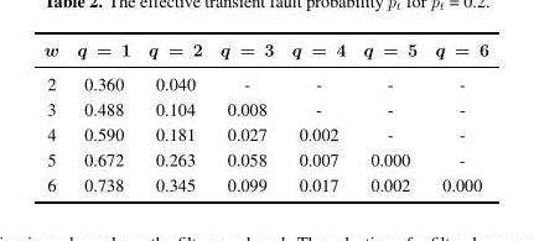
<table><thead><tr><td>w</td><td>q = 1</td><td>q = 2</td><td>q = 3</td><td>q = 4</td><td>q = 5</td><td>q = 6</td></tr></thead><tbody><tr><td>2</td><td>0.360</td><td>0.040</td><td>-</td><td>-</td><td>-</td><td>-</td></tr><tr><td>3</td><td>0.488</td><td>0.104</td><td>0.008</td><td>-</td><td>-</td><td>-</td></tr><tr><td>4</td><td>0.590</td><td>0.181</td><td>0.027</td><td>0.002</td><td>-</td><td>-</td></tr><tr><td>5</td><td>0.672</td><td>0.263</td><td>0.058</td><td>0.007</td><td>0.000</td><td>-</td></tr><tr><td>6</td><td>0.738</td><td>0.345</td><td>0.099</td><td>0.017</td><td>0.002</td><td>0.000</td></tr></tbody></table>